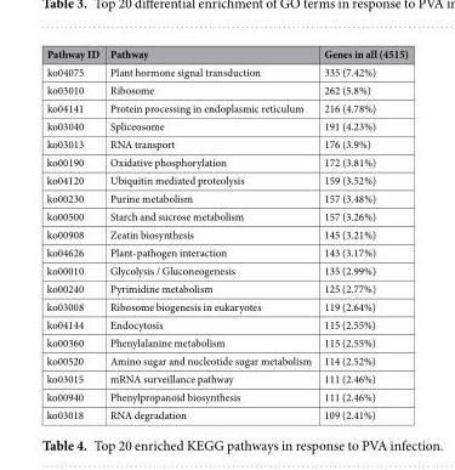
<table><thead><tr><td>Pathway ID</td><td>Pathway</td><td>Genes in all (4515)</td></tr></thead><tbody><tr><td>ko04075</td><td>Plant hormone signal transduction</td><td>335 (7.42%)</td></tr><tr><td>ko03010</td><td>Ribosome</td><td>262 (5.8%)</td></tr><tr><td>ko04141</td><td>Protein processing in endoplasmic reticulum</td><td>216 (4.78%)</td></tr><tr><td>ko03040</td><td>Spliceosome</td><td>191 (4.23%)</td></tr><tr><td>ko03013</td><td>RNA transport</td><td>176 (3.9%)</td></tr><tr><td>ko00190</td><td>Oxidative phosphorylation</td><td>172 (3.81%)</td></tr><tr><td>ko04120</td><td>Ubiquitin mediated proteolysis</td><td>159 (3.52%)</td></tr><tr><td>ko00230</td><td>Purine metabolism</td><td>157 (3.48%)</td></tr><tr><td>ko00500</td><td>Starch and sucrose metabolism</td><td>157 (3.26%)</td></tr><tr><td>ko00908</td><td>Zeatin biosynthesis</td><td>145 (3.21%)</td></tr><tr><td>ko04626</td><td>Plant-pathogen interaction</td><td>143 (3.17%)</td></tr><tr><td>ko00010</td><td>Glycolysis / Gluconeogenesis</td><td>135 (2.99%)</td></tr><tr><td>ko00240</td><td>Pyrimidine metabolism</td><td>125 (2.77%)</td></tr><tr><td>ko03008</td><td>Ribosome biogenesis in eukaryotes</td><td>119 (2.64%)</td></tr><tr><td>ko04144</td><td>Endocytosis</td><td>115 (2.55%)</td></tr><tr><td>ko00360</td><td>Phenylalanine metabolism</td><td>115 (2.55%)</td></tr><tr><td>ko00520</td><td>Amino sugar and nucleotide sugar metabolism</td><td>114 (2.52%)</td></tr><tr><td>ko03015</td><td>mRNA surveillance pathway</td><td>111 (2.46%)</td></tr><tr><td>ko00940</td><td>Phenylpropanoid biosynthesis</td><td>111 (2.46%)</td></tr><tr><td>ko03018</td><td>RNA degradation</td><td>109 (2.41%)</td></tr></tbody></table>